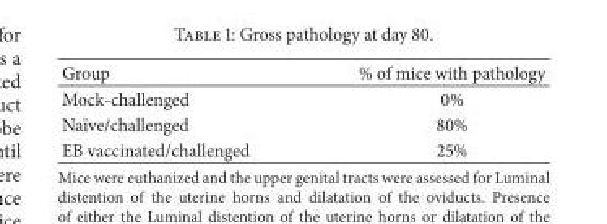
<table><thead><tr><td>Group</td><td>% of mice with pathology</td></tr></thead><tbody><tr><td>Mock-challenged</td><td>0%</td></tr><tr><td>Na¨ıve/challenged</td><td>80%</td></tr><tr><td>EB vaccinated/challenged</td><td>25%</td></tr></tbody></table>